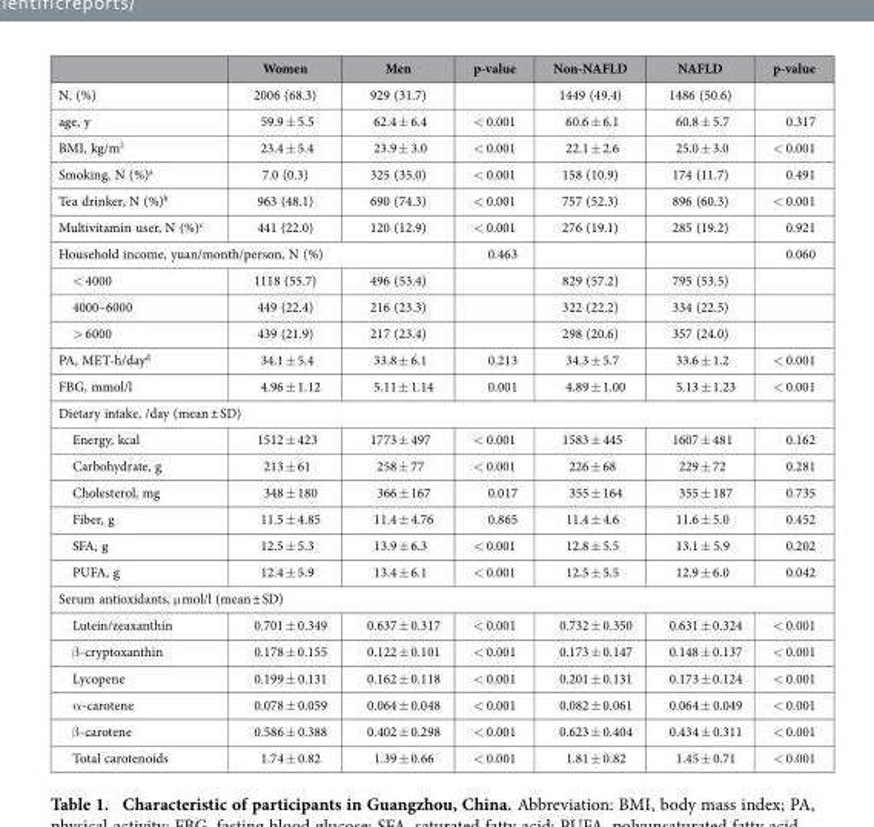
<table><thead><tr><td></td><td>Women</td><td>Men</td><td>p-value</td><td>Non-NAFLD</td><td>NAFLD</td><td>p-value</td></tr></thead><tbody><tr><td>N, (%)</td><td>2006 (68.3)</td><td>929 (31.7)</td><td></td><td>1449 (49.4)</td><td>1486 (50.6)</td><td></td></tr><tr><td>age, y</td><td>59.9 ± 5.5</td><td>62.4 ± 6.4</td><td>&lt; 0.001</td><td>60.6 ± 6.1</td><td>60.8 ± 5.7</td><td>0.317</td></tr><tr><td>BMI, kg/m<sup>2</sup></td><td>23.4 ± 5.4</td><td>23.9 ± 3.0</td><td>&lt; 0.001</td><td>22.1 ± 2.6</td><td>25.0 ± 3.0</td><td>&lt; 0.001</td></tr><tr><td>Smoking, N (%)<sup>a</sup></td><td>7.0 (0.3)</td><td>325 (35.0)</td><td>&lt; 0.001</td><td>158 (10.9)</td><td>174 (11.7)</td><td>0.491</td></tr><tr><td>Tea drinker, N (%)<sup>b</sup></td><td>963 (48.1)</td><td>690 (74.3)</td><td>&lt; 0.001</td><td>757 (52.3)</td><td>896 (60.3)</td><td>&lt; 0.001</td></tr><tr><td>Multivitamin user, N (%)<sup>c</sup></td><td>441 (22.0)</td><td>120 (12.9)</td><td>&lt; 0.001</td><td>276 (19.1)</td><td>285 (19.2)</td><td>0.921</td></tr><tr><td colspan="3">Household income, yuan/month/person, N (%)</td><td>0.463</td><td></td><td></td><td>0.060</td></tr><tr><td>&lt; 4000</td><td>1118 (55.7)</td><td>496 (53.4)</td><td></td><td>829 (57.2)</td><td>795 (53.5)</td><td></td></tr><tr><td>4000–6000</td><td>449 (22.4)</td><td>216 (23.3)</td><td></td><td>322 (22.2)</td><td>334 (22.5)</td><td></td></tr><tr><td>&gt; 6000</td><td>439 (21.9)</td><td>217 (23.4)</td><td></td><td>298 (20.6)</td><td>357 (24.0)</td><td></td></tr><tr><td>PA, MET-h/day<sup>d</sup></td><td>34.1 ± 5.4</td><td>33.8 ± 6.1</td><td>0.213</td><td>34.3 ± 5.7</td><td>33.6 ± 1.2</td><td>&lt; 0.001</td></tr><tr><td>FBG, mmol/l</td><td>4.96 ± 1.12</td><td>5.11 ± 1.14</td><td>0.001</td><td>4.89 ± 1.00</td><td>5.13 ± 1.23</td><td>&lt; 0.001</td></tr><tr><td colspan="7">Dietary intake, /day (mean ± SD)</td></tr><tr><td>Energy, kcal</td><td>1512 ± 423</td><td>1773 ± 497</td><td>&lt; 0.001</td><td>1583 ± 445</td><td>1607 ± 481</td><td>0.162</td></tr><tr><td>Carbohydrate, g</td><td>213 ± 61</td><td>258 ± 77</td><td>&lt; 0.001</td><td>226 ± 68</td><td>229 ± 72</td><td>0.281</td></tr><tr><td>Cholesterol, mg</td><td>348 ± 180</td><td>366 ± 167</td><td>0.017</td><td>355 ± 164</td><td>355 ± 187</td><td>0.735</td></tr><tr><td>Fiber, g</td><td>11.5 ± 4.85</td><td>11.4 ± 4.76</td><td>0.865</td><td>11.4 ± 4.6</td><td>11.6 ± 5.0</td><td>0.452</td></tr><tr><td>SFA, g</td><td>12.5 ± 5.3</td><td>13.9 ± 6.3</td><td>&lt; 0.001</td><td>12.8 ± 5.5</td><td>13.1 ± 5.9</td><td>0.202</td></tr><tr><td>PUFA, g</td><td>12.4 ± 5.9</td><td>13.4 ± 6.1</td><td>&lt; 0.001</td><td>12.5 ± 5.5</td><td>12.9 ± 6.0</td><td>0.042</td></tr><tr><td colspan="7">Serum antioxidants, μ mol/l (mean ± SD)</td></tr><tr><td>Lutein/zeaxanthin</td><td>0.701 ± 0.349</td><td>0.637 ± 0.317</td><td>&lt; 0.001</td><td>0.732 ± 0.350</td><td>0.631 ± 0.324</td><td>&lt; 0.001</td></tr><tr><td>β -cryptoxanthin</td><td>0.178 ± 0.155</td><td>0.122 ± 0.101</td><td>&lt; 0.001</td><td>0.173 ± 0.147</td><td>0.148 ± 0.137</td><td>&lt; 0.001</td></tr><tr><td>Lycopene</td><td>0.199 ± 0.131</td><td>0.162 ± 0.118</td><td>&lt; 0.001</td><td>0.201 ± 0.131</td><td>0.173 ± 0.124</td><td>&lt; 0.001</td></tr><tr><td>α -carotene</td><td>0.078 ± 0.059</td><td>0.064 ± 0.048</td><td>&lt; 0.001</td><td>0.082 ± 0.061</td><td>0.064 ± 0.049</td><td>&lt; 0.001</td></tr><tr><td>β -carotene</td><td>0.586 ± 0.388</td><td>0.402 ± 0.298</td><td>&lt; 0.001</td><td>0.623 ± 0.404</td><td>0.434 ± 0.311</td><td>&lt; 0.001</td></tr><tr><td>Total carotenoids</td><td>1.74 ± 0.82</td><td>1.39 ± 0.66</td><td>&lt; 0.001</td><td>1.81 ± 0.82</td><td>1.45 ± 0.71</td><td>&lt; 0.001</td></tr></tbody></table>